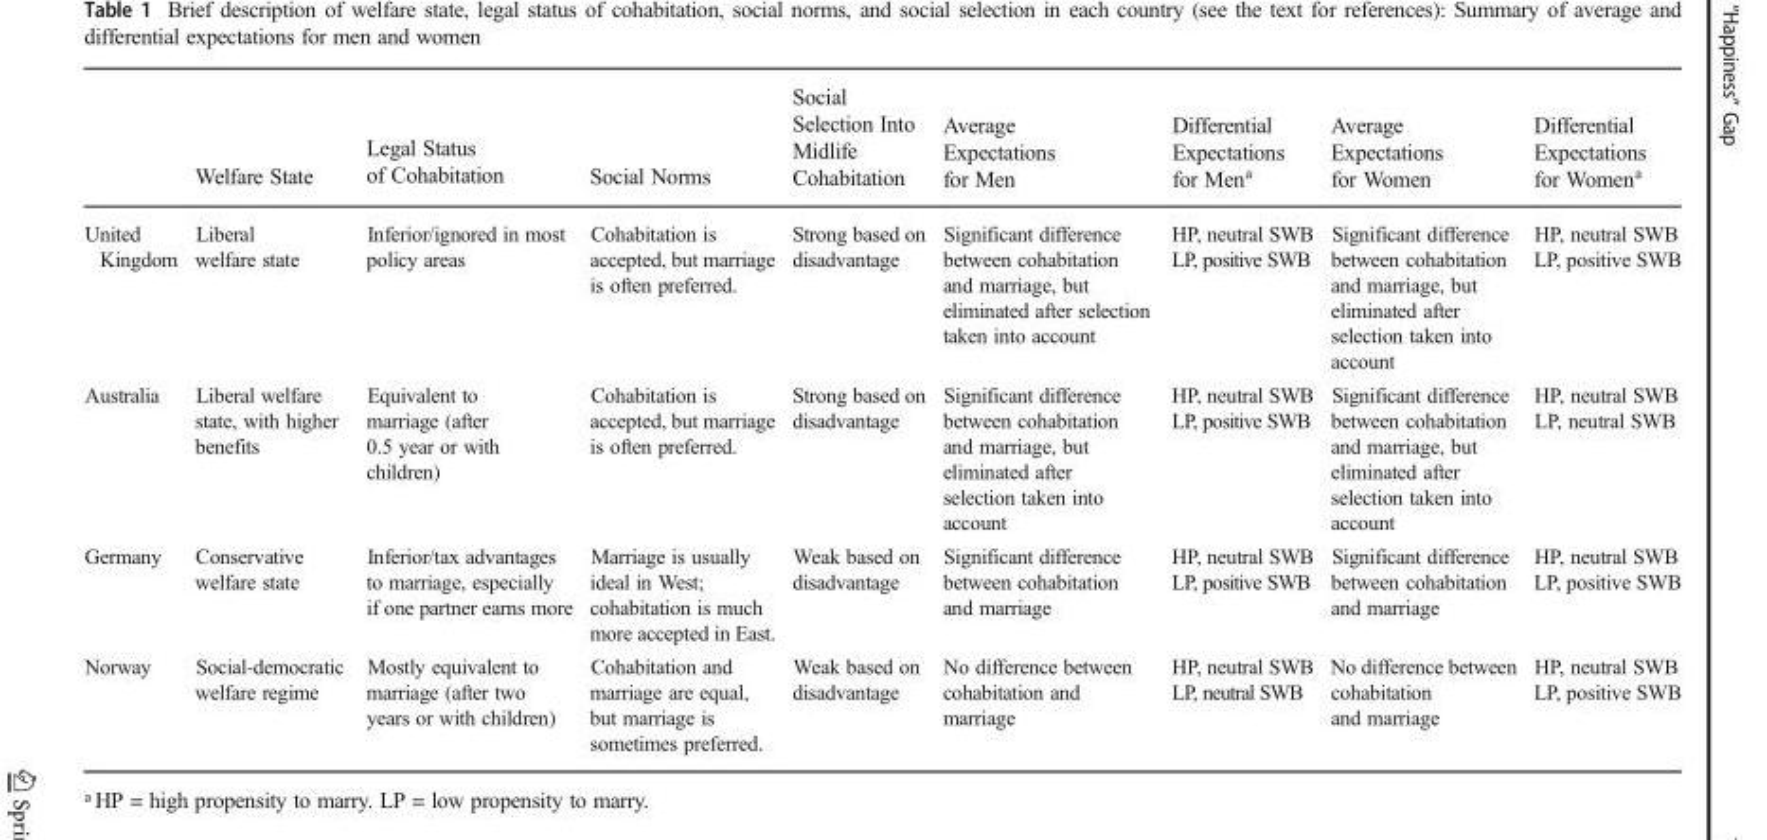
<table><thead><tr><td></td><td>Welfare State</td><td>Legal Status of Cohabitation</td><td>Social Norms</td><td>Social Selection Into Midlife Cohabitation</td><td>Average Expectations for Men</td><td>Differential Expectations for Men<sup>a</sup></td><td>Average Expectations for Women</td><td>Differential Expectations for Women<sup>a</sup></td></tr></thead><tbody><tr><td>United Kingdom</td><td>Liberal welfare state</td><td>Inferior/ignored in most policy areas</td><td>Cohabitation is accepted, but marriage is often preferred.</td><td>Strong based on disadvantage</td><td>Significant difference between cohabitation and marriage, but eliminated after selection taken into account</td><td>HP, neutral SWB LP, positive SWB</td><td>Significant difference between cohabitation and marriage, but eliminated after selection taken into account</td><td>HP, neutral SWB LP, positive SWB</td></tr><tr><td>Australia</td><td>Liberal welfare state, with higher benefits</td><td>Equivalent to marriage (after 0.5 year or with children)</td><td>Cohabitation is accepted, but marriage is often preferred.</td><td>Strong based on disadvantage</td><td>Significant difference between cohabitation and marriage, but eliminated after selection taken into account</td><td>HP, neutral SWB LP, positive SWB</td><td>Significant difference between cohabitation and marriage, but eliminated after selection taken into account</td><td>HP, neutral SWB LP, neutral SWB</td></tr><tr><td>Germany</td><td>Conservative welfare state</td><td>Inferior/tax advantages to marriage, especially if one partner earns more</td><td>Marriage is usually ideal in West; cohabitation is much more accepted in East.</td><td>Weak based on disadvantage</td><td>Significant difference between cohabitation and marriage</td><td>HP, neutral SWB LP, positive SWB</td><td>Significant difference between cohabitation and marriage</td><td>HP, neutral SWB LP, positive SWB</td></tr><tr><td>Norway</td><td>Social-democratic welfare regime</td><td>Mostly equivalent to marriage (after two years or with children)</td><td>Cohabitation and marriage are equal, but marriage is sometimes preferred.</td><td>Weak based on disadvantage</td><td>No difference between cohabitation and marriage</td><td>HP, neutral SWB LP, neutral SWB</td><td>No difference between cohabitation and marriage</td><td>HP, neutral SWB LP, positive SWB</td></tr></tbody></table>